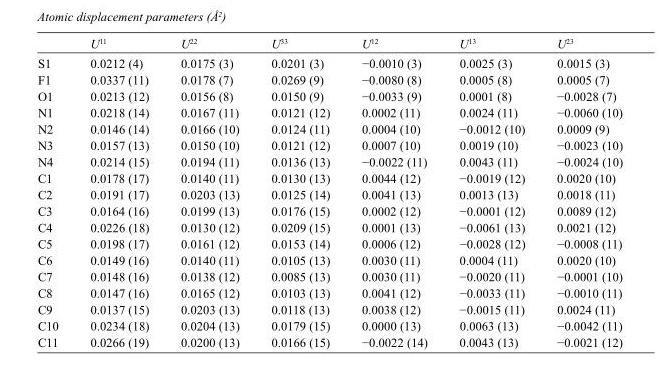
<table><thead><tr><td></td><td>U<sup>11</sup></td><td>U<sup>22</sup></td><td>U<sup>33</sup></td><td>U<sup>12</sup></td><td>U<sup>13</sup></td><td>U<sup>23</sup></td></tr></thead><tbody><tr><td>S1</td><td>0.0212 (4)</td><td>0.0175 (3)</td><td>0.0201 (3)</td><td>−0.0010 (3)</td><td>0.0025 (3)</td><td>0.0015 (3)</td></tr><tr><td>F1</td><td>0.0337 (11)</td><td>0.0178 (7)</td><td>0.0269 (9)</td><td>−0.0080 (8)</td><td>0.0005 (8)</td><td>0.0005 (7)</td></tr><tr><td>O1</td><td>0.0213 (12)</td><td>0.0156 (8)</td><td>0.0150 (9)</td><td>−0.0033 (9)</td><td>0.0001 (8)</td><td>−0.0028 (7)</td></tr><tr><td>N1</td><td>0.0218 (14)</td><td>0.0167 (11)</td><td>0.0121 (12)</td><td>0.0002 (11)</td><td>0.0024 (11)</td><td>−0.0060 (10)</td></tr><tr><td>N2</td><td>0.0146 (14)</td><td>0.0166 (10)</td><td>0.0124 (11)</td><td>0.0004 (10)</td><td>−0.0012 (10)</td><td>0.0009 (9)</td></tr><tr><td>N3</td><td>0.0157 (13)</td><td>0.0150 (10)</td><td>0.0121 (12)</td><td>0.0007 (10)</td><td>0.0019 (10)</td><td>−0.0023 (10)</td></tr><tr><td>N4</td><td>0.0214 (15)</td><td>0.0194 (11)</td><td>0.0136 (13)</td><td>−0.0022 (11)</td><td>0.0043 (11)</td><td>−0.0024 (10)</td></tr><tr><td>C1</td><td>0.0178 (17)</td><td>0.0140 (11)</td><td>0.0130 (13)</td><td>0.0044 (12)</td><td>−0.0019 (12)</td><td>0.0020 (10)</td></tr><tr><td>C2</td><td>0.0191 (17)</td><td>0.0203 (13)</td><td>0.0125 (14)</td><td>0.0041 (13)</td><td>0.0013 (13)</td><td>0.0018 (11)</td></tr><tr><td>C3</td><td>0.0164 (16)</td><td>0.0199 (13)</td><td>0.0176 (15)</td><td>0.0002 (12)</td><td>−0.0001 (12)</td><td>0.0089 (12)</td></tr><tr><td>C4</td><td>0.0226 (18)</td><td>0.0130 (12)</td><td>0.0209 (15)</td><td>0.0001 (13)</td><td>−0.0061 (13)</td><td>0.0021 (12)</td></tr><tr><td>C5</td><td>0.0198 (17)</td><td>0.0161 (12)</td><td>0.0153 (14)</td><td>0.0006 (12)</td><td>−0.0028 (12)</td><td>−0.0008 (11)</td></tr><tr><td>C6</td><td>0.0149 (16)</td><td>0.0140 (11)</td><td>0.0105 (13)</td><td>0.0030 (11)</td><td>0.0004 (11)</td><td>0.0020 (10)</td></tr><tr><td>C7</td><td>0.0148 (16)</td><td>0.0138 (12)</td><td>0.0085 (13)</td><td>0.0030 (11)</td><td>−0.0020 (11)</td><td>−0.0001 (10)</td></tr><tr><td>C8</td><td>0.0147 (16)</td><td>0.0165 (12)</td><td>0.0103 (13)</td><td>0.0041 (12)</td><td>−0.0033 (11)</td><td>−0.0010 (11)</td></tr><tr><td>C9</td><td>0.0137 (15)</td><td>0.0203 (13)</td><td>0.0118 (13)</td><td>0.0038 (12)</td><td>−0.0015 (11)</td><td>0.0024 (11)</td></tr><tr><td>C10</td><td>0.0234 (18)</td><td>0.0204 (13)</td><td>0.0179 (15)</td><td>0.0000 (13)</td><td>0.0063 (13)</td><td>−0.0042 (11)</td></tr><tr><td>C11</td><td>0.0266 (19)</td><td>0.0200 (13)</td><td>0.0166 (15)</td><td>−0.0022 (14)</td><td>0.0043 (13)</td><td>−0.0021 (12)</td></tr></tbody></table>